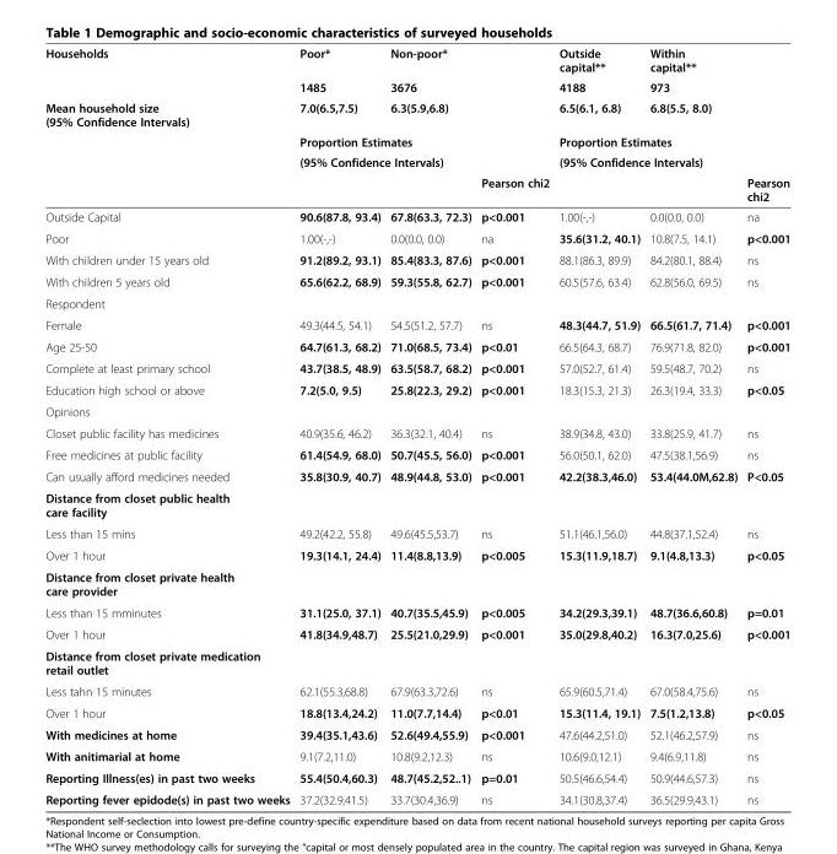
<table><thead><tr><td rowspan="6">Households Mean household size (95% Confidence Intervals)</td><td rowspan="3">Poor* 1485 7.0(6.5,7.5)</td><td rowspan="3">Non-poor* 3676 6.3(5.9,6.8)</td><td rowspan="6">Pearson chi2</td><td rowspan="3">Outside capital** 4188 6.5(6.1, 6.8)</td><td rowspan="3">Within capital** 973 6.8(5.5, 8.0)</td><td rowspan="6">Pearson chi2</td></tr><tr></tr><tr></tr><tr><td rowspan="2" colspan="2">Proportion Estimates (95% Confidence Intervals)</td><td rowspan="2" colspan="2">Proportion Estimates (95% Confidence Intervals)</td></tr><tr></tr><tr><td></td><td></td><td></td><td></td></tr></thead><tbody><tr><td>Outside Capital</td><td>90.6(87.8, 93.4)</td><td>67.8(63.3, 72.3)</td><td>p&lt;0.001</td><td>1.00(-,-)</td><td>0.0(0.0, 0.0)</td><td>na</td></tr><tr><td>Poor</td><td>1.00(-,-)</td><td>0.0(0.0, 0.0)</td><td>na</td><td>35.6(31.2, 40.1)</td><td>10.8(7.5, 14.1)</td><td>p&lt;0.001</td></tr><tr><td>With children under 15 years old</td><td>91.2(89.2, 93.1)</td><td>85.4(83.3, 87.6)</td><td>p&lt;0.001</td><td>88.1(86.3, 89.9)</td><td>84.2(80.1, 88.4)</td><td>ns</td></tr><tr><td>With children 5 years old</td><td>65.6(62.2, 68.9)</td><td>59.3(55.8, 62.7)</td><td>p&lt;0.001</td><td>60.5(57.6, 63.4)</td><td>62.8(56.0, 69.5)</td><td>ns</td></tr><tr><td colspan="7">Respondent</td></tr><tr><td>Female</td><td>49.3(44.5, 54.1)</td><td>54.5(51.2, 57.7)</td><td>ns</td><td>48.3(44.7, 51.9)</td><td>66.5(61.7, 71.4)</td><td>p&lt;0.001</td></tr><tr><td>Age 25-50</td><td>64.7(61.3, 68.2)</td><td>71.0(68.5, 73.4)</td><td>p&lt;0.01</td><td>66.5(64.3, 68.7)</td><td>76.9(71.8, 82.0)</td><td>p&lt;0.001</td></tr><tr><td>Complete at least primary school</td><td>43.7(38.5, 48.9)</td><td>63.5(58.7, 68.2)</td><td>p&lt;0.001</td><td>57.0(52.7, 61.4)</td><td>59.5(48.7, 70.2)</td><td>ns</td></tr><tr><td>Education high school or above</td><td>7.2(5.0, 9.5)</td><td>25.8(22.3, 29.2)</td><td>p&lt;0.001</td><td>18.3(15.3, 21.3)</td><td>26.3(19.4, 33.3)</td><td>p&lt;0.05</td></tr><tr><td colspan="7">Opinions</td></tr><tr><td>Closet public facility has medicines</td><td>40.9(35.6, 46.2)</td><td>36.3(32.1, 40.4)</td><td>ns</td><td>38.9(34.8, 43.0)</td><td>33.8(25.9, 41.7)</td><td>ns</td></tr><tr><td>Free medicines at public facility</td><td>61.4(54.9, 68.0)</td><td>50.7(45.5, 56.0)</td><td>p&lt;0.001</td><td>56.0(50.1, 62.0)</td><td>47.5(38.1,56.9)</td><td>ns</td></tr><tr><td>Can usually afford medicines needed</td><td>35.8(30.9, 40.7)</td><td>48.9(44.8, 53.0)</td><td>p&lt;0.001</td><td>42.2(38.3,46.0)</td><td>53.4(44.0M,62.8)</td><td>P&lt;0.05</td></tr><tr><td colspan="7">Distance from closet public health care facility</td></tr><tr><td>Less than 15 mins</td><td>49.2(42.2, 55.8)</td><td>49.6(45.5,53.7)</td><td>ns</td><td>51.1(46.1,56.0)</td><td>44.8(37.1,52.4)</td><td>ns</td></tr><tr><td>Over 1 hour</td><td>19.3(14.1, 24.4)</td><td>11.4(8.8,13.9)</td><td>p&lt;0.005</td><td>15.3(11.9,18.7)</td><td>9.1(4.8,13.3)</td><td>p&lt;0.05</td></tr><tr><td colspan="7">Distance from closet private health care provider</td></tr><tr><td>Less than 15 mminutes</td><td>31.1(25.0, 37.1)</td><td>40.7(35.5,45.9)</td><td>p&lt;0.005</td><td>34.2(29.3,39.1)</td><td>48.7(36.6,60.8)</td><td>p=0.01</td></tr><tr><td>Over 1 hour</td><td>41.8(34.9,48.7)</td><td>25.5(21.0,29.9)</td><td>p&lt;0.001</td><td>35.0(29.8,40.2)</td><td>16.3(7.0,25.6)</td><td>p&lt;0.001</td></tr><tr><td colspan="7">Distance from closet private medication retail outlet</td></tr><tr><td>Less tahn 15 minutes</td><td>62.1(55.3,68.8)</td><td>67.9(63.3,72.6)</td><td>ns</td><td>65.9(60.5,71.4)</td><td>67.0(58.4,75.6)</td><td>ns</td></tr><tr><td>Over 1 hour</td><td>18.8(13.4,24.2)</td><td>11.0(7.7,14.4)</td><td>p&lt;0.01</td><td>15.3(11.4, 19.1)</td><td>7.5(1.2,13.8)</td><td>p&lt;0.05</td></tr><tr><td>With medicines at home</td><td>39.4(35.1,43.6)</td><td>52.6(49.4,55.9)</td><td>p&lt;0.001</td><td>47.6(44.2,51.0)</td><td>52.1(46.2,57.9)</td><td>ns</td></tr><tr><td>With anitimarial at home</td><td>9.1(7.2,11.0)</td><td>10.8(9.2,12.3)</td><td>ns</td><td>10.6(9.0,12.1)</td><td>9.4(6.9,11.8)</td><td>ns</td></tr><tr><td>Reporting Illness(es) in past two weeks</td><td>55.4(50.4,60.3)</td><td>48.7(45.2,52..1)</td><td>p=0.01</td><td>50.5(46.6,54.4)</td><td>50.9(44.6,57.3)</td><td>ns</td></tr><tr><td>Reporting fever epidode(s) in past two weeks</td><td>37.2(32.9,41.5)</td><td>33.7(30.4,36.9)</td><td>ns</td><td>34.1(30.8,37.4)</td><td>36.5(29.9,43.1)</td><td>ns</td></tr></tbody></table>